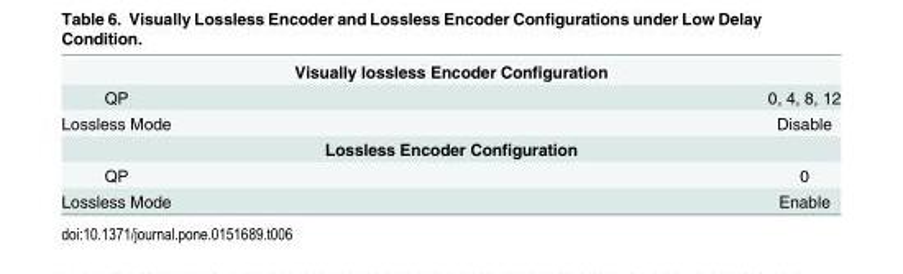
<table><tbody><tr><td colspan="2">Visually lossless Encoder Configuration</td></tr><tr><td>QP</td><td>0, 4, 8, 12</td></tr><tr><td>Lossless Mode</td><td>Disable</td></tr><tr><td colspan="2">Lossless Encoder Configuration</td></tr><tr><td>QP</td><td>0</td></tr><tr><td>Lossless Mode</td><td>Enable</td></tr></tbody></table>